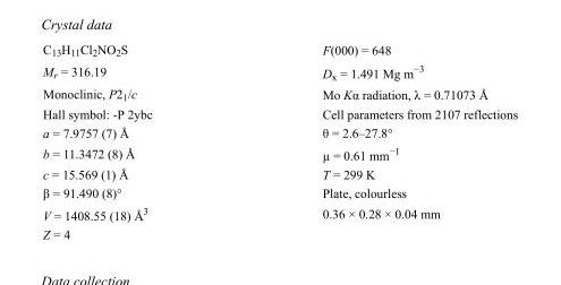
<table><tbody><tr><td>C<sub>13</sub>H<sub>11</sub>Cl<sub>2</sub>NO<sub>2</sub>S</td><td>F(000) = 648</td></tr><tr><td>M<sub>r</sub> = 316.19</td><td>D<sub>x</sub> = 1.491 Mg m<sup>−3</sup></td></tr><tr><td>Monoclinic, P2<sub>1</sub>/c</td><td>Mo Kα radiation, λ = 0.71073 Å</td></tr><tr><td>Hall symbol: -P 2ybc</td><td>Cell parameters from 2107 reflections</td></tr><tr><td>a = 7.9757 (7) Å</td><td>θ = 2.6–27.8°</td></tr><tr><td>b = 11.3472 (8) Å</td><td>µ = 0.61 mm<sup>−1</sup></td></tr><tr><td>c = 15.569 (1) Å</td><td>T = 299 K</td></tr><tr><td>β = 91.490 (8)°</td><td>Plate, colourless</td></tr><tr><td>V = 1408.55 (18) Å<sup>3</sup></td><td>0.36 × 0.28 × 0.04 mm</td></tr><tr><td>Z = 4</td><td></td></tr></tbody></table>